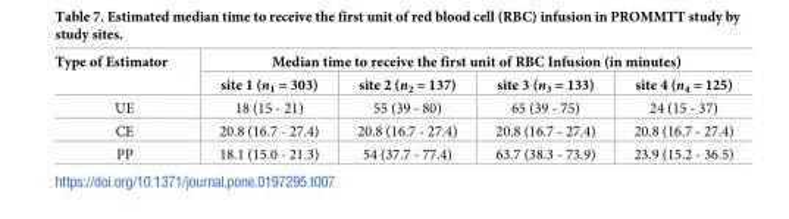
<table><thead><tr><td rowspan="2">Type of Estimator</td><td colspan="4">Median time to receive the first unit of RBC Infusion (in minutes)</td></tr><tr><td>site 1 (n<sub>1</sub> = 303)</td><td>site 2 (n<sub>2</sub> = 137)</td><td>site 3 (n<sub>3</sub> = 133)</td><td>site 4 (n<sub>4</sub> = 125)</td></tr></thead><tbody><tr><td>UE</td><td>18 (15 - 21)</td><td>55 (39 - 80)</td><td>65 (39 - 75)</td><td>24 (15 - 37)</td></tr><tr><td>CE</td><td>20.8 (16.7 - 27.4)</td><td>20.8 (16.7 - 27.4)</td><td>20.8 (16.7 - 27.4)</td><td>20.8 (16.7 - 27.4)</td></tr><tr><td>PP</td><td>18.1 (15.0 - 21.3)</td><td>54 (37.7 - 77.4)</td><td>63.7 (38.3 - 73.9)</td><td>23.9 (15.2 - 36.5)</td></tr></tbody></table>